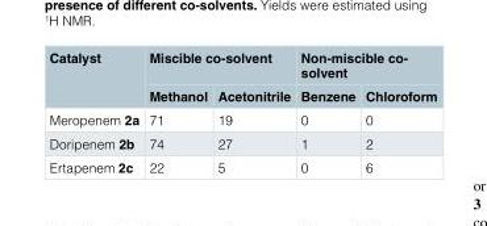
<table><thead><tr><td rowspan="2">Catalyst</td><td colspan="2">Miscible co-solvent</td><td colspan="2">Non-miscible co- solvent</td></tr><tr><td>Methanol</td><td>Acetonitrile</td><td>Benzene</td><td>Chloroform</td></tr></thead><tbody><tr><td>Meropenem 2a</td><td>71</td><td>19</td><td>0</td><td>0</td></tr><tr><td>Doripenem 2b</td><td>74</td><td>27</td><td>1</td><td>2</td></tr><tr><td>Ertapenem 2c</td><td>22</td><td>5</td><td>0</td><td>6</td></tr></tbody></table>